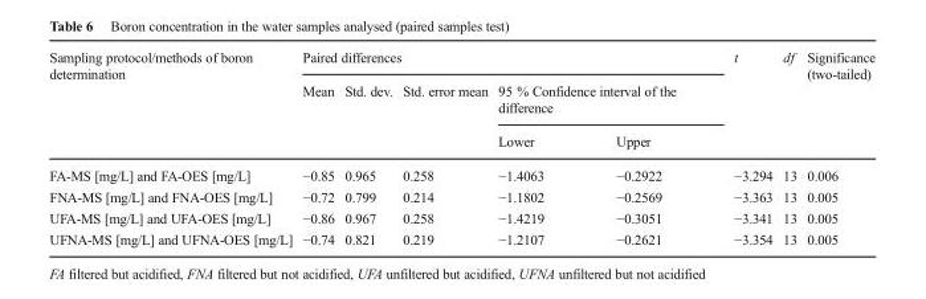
<table><thead><tr><td rowspan="3">Sampling protocol/methods of boron determination</td><td colspan="5">Paired differences</td><td rowspan="3">t</td><td rowspan="3">df</td><td rowspan="3">Significance (two-tailed)</td></tr><tr><td rowspan="2">Mean</td><td rowspan="2">Std. dev.</td><td rowspan="2">Std. error mean</td><td colspan="2">95 % Confidence interval of the difference</td></tr><tr><td>Lower</td><td>Upper</td></tr></thead><tbody><tr><td>FA-MS [mg/L] and FA-OES [mg/L]</td><td>−0.85</td><td>0.965</td><td>0.258</td><td>−1.4063</td><td>−0.2922</td><td>−3.294</td><td>13</td><td>0.006</td></tr><tr><td>FNA-MS [mg/L] and FNA-OES [mg/L]</td><td>−0.72</td><td>0.799</td><td>0.214</td><td>−1.1802</td><td>−0.2569</td><td>−3.363</td><td>13</td><td>0.005</td></tr><tr><td>UFA-MS [mg/L] and UFA-OES [mg/L]</td><td>−0.86</td><td>0.967</td><td>0.258</td><td>−1.4219</td><td>−0.3051</td><td>−3.341</td><td>13</td><td>0.005</td></tr><tr><td>UFNA-MS [mg/L] and UFNA-OES [mg/L]</td><td>−0.74</td><td>0.821</td><td>0.219</td><td>−1.2107</td><td>−0.2621</td><td>−3.354</td><td>13</td><td>0.005</td></tr></tbody></table>